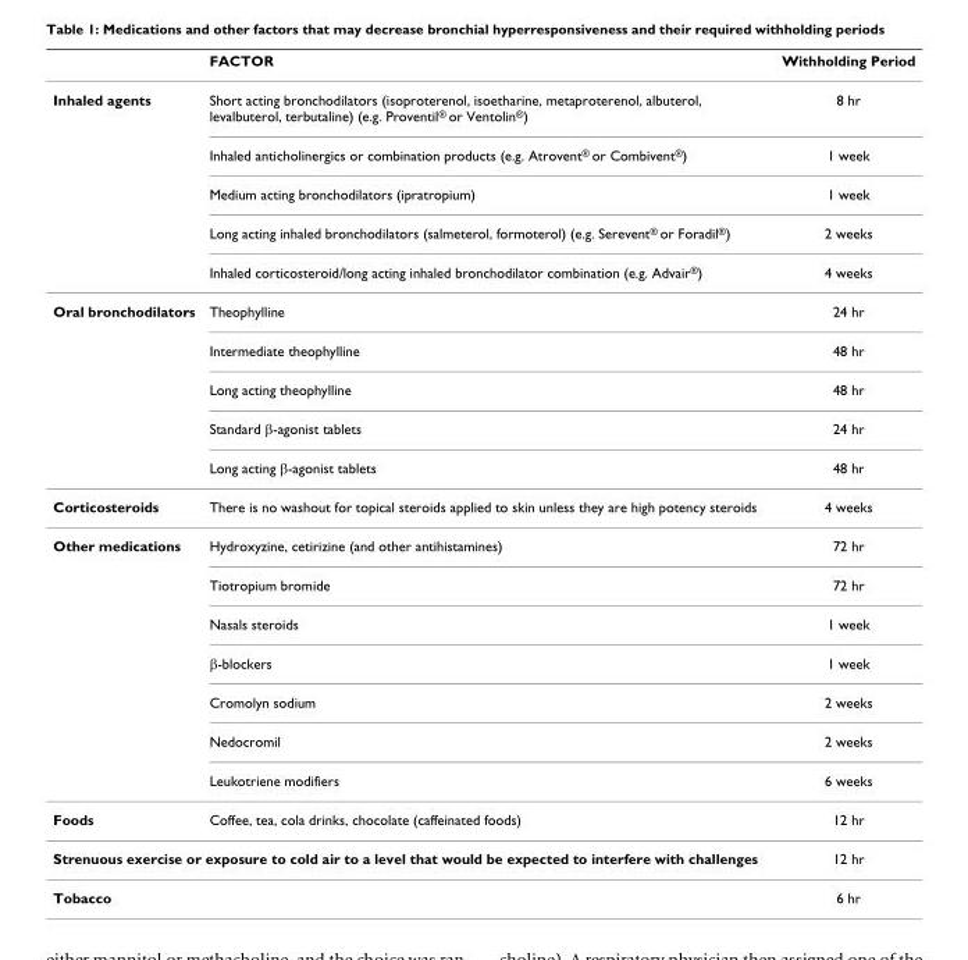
<table><thead><tr><td></td><td>FACTOR</td><td>Withholding Period</td></tr></thead><tbody><tr><td rowspan="5">Inhaled agents</td><td>Short acting bronchodilators (isoproterenol, isoetharine, metaproterenol, albuterol, levalbuterol, terbutaline) (e.g. Proventil<sup>®</sup> or Ventolin<sup>®</sup>)</td><td>8 hr</td></tr><tr><td>Inhaled anticholinergics or combination products (e.g. Atrovent<sup>®</sup> or Combivent<sup>®</sup>)</td><td>1 week</td></tr><tr><td>Medium acting bronchodilators (ipratropium)</td><td>1 week</td></tr><tr><td>Long acting inhaled bronchodilators (salmeterol, formoterol) (e.g. Serevent<sup>®</sup> or Foradil<sup>®</sup>)</td><td>2 weeks</td></tr><tr><td>Inhaled corticosteroid/long acting inhaled bronchodilator combination (e.g. Advair<sup>®</sup>)</td><td>4 weeks</td></tr><tr><td rowspan="5">Oral bronchodilators</td><td>Theophylline</td><td>24 hr</td></tr><tr><td>Intermediate theophylline</td><td>48 hr</td></tr><tr><td>Long acting theophylline</td><td>48 hr</td></tr><tr><td>Standard β-agonist tablets</td><td>24 hr</td></tr><tr><td>Long acting β-agonist tablets</td><td>48 hr</td></tr><tr><td>Corticosteroids</td><td>There is no washout for topical steroids applied to skin unless they are high potency steroids</td><td>4 weeks</td></tr><tr><td rowspan="7">Other medications</td><td>Hydroxyzine, cetirizine (and other antihistamines)</td><td>72 hr</td></tr><tr><td>Tiotropium bromide</td><td>72 hr</td></tr><tr><td>Nasals steroids</td><td>1 week</td></tr><tr><td>β-blockers</td><td>1 week</td></tr><tr><td>Cromolyn sodium</td><td>2 weeks</td></tr><tr><td>Nedocromil</td><td>2 weeks</td></tr><tr><td>Leukotriene modifiers</td><td>6 weeks</td></tr><tr><td>Foods</td><td>Coffee, tea, cola drinks, chocolate (caffeinated foods)</td><td>12 hr</td></tr><tr><td colspan="2">Strenuous exercise or exposure to cold air to a level that would be expected to interfere with challenges</td><td>12 hr</td></tr><tr><td>Tobacco</td><td></td><td>6 hr</td></tr></tbody></table>